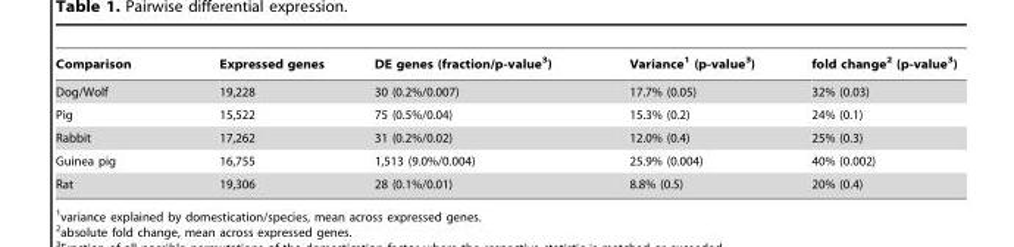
<table><thead><tr><td>Comparison</td><td>Expressed genes</td><td>DE genes (fraction/p-value<sup>3</sup>)</td><td>Variance<sup>1</sup> (p-value<sup>3</sup>)</td><td>fold change<sup>2</sup> (p-value<sup>3</sup>)</td></tr></thead><tbody><tr><td>Dog/Wolf</td><td>19,228</td><td>30 (0.2%/0.007)</td><td>17.7% (0.05)</td><td>32% (0.03)</td></tr><tr><td>Pig</td><td>15,522</td><td>75 (0.5%/0.04)</td><td>15.3% (0.2)</td><td>24% (0.1)</td></tr><tr><td>Rabbit</td><td>17,262</td><td>31 (0.2%/0.02)</td><td>12.0% (0.4)</td><td>25% (0.3)</td></tr><tr><td>Guinea pig</td><td>16,755</td><td>1,513 (9.0%/0.004)</td><td>25.9% (0.004)</td><td>40% (0.002)</td></tr><tr><td>Rat</td><td>19,306</td><td>28 (0.1%/0.01)</td><td>8.8% (0.5)</td><td>20% (0.4)</td></tr></tbody></table>